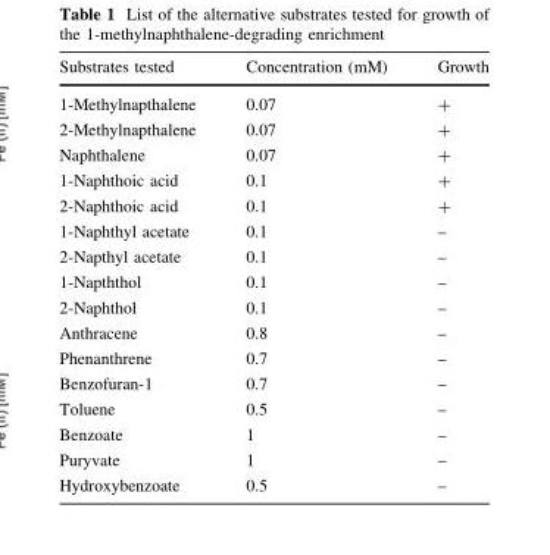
<table><thead><tr><td>Substrates tested</td><td>Concentration (mM)</td><td>Growth</td></tr></thead><tbody><tr><td>1-Methylnapthalene</td><td>0.07</td><td>+</td></tr><tr><td>2-Methylnapthalene</td><td>0.07</td><td>+</td></tr><tr><td>Naphthalene</td><td>0.07</td><td>+</td></tr><tr><td>1-Naphthoic acid</td><td>0.1</td><td>+</td></tr><tr><td>2-Naphthoic acid</td><td>0.1</td><td>+</td></tr><tr><td>1-Naphthyl acetate</td><td>0.1</td><td>–</td></tr><tr><td>2-Napthyl acetate</td><td>0.1</td><td>–</td></tr><tr><td>1-Napththol</td><td>0.1</td><td>–</td></tr><tr><td>2-Naphthol</td><td>0.1</td><td>–</td></tr><tr><td>Anthracene</td><td>0.8</td><td>–</td></tr><tr><td>Phenanthrene</td><td>0.7</td><td>–</td></tr><tr><td>Benzofuran-1</td><td>0.7</td><td>–</td></tr><tr><td>Toluene</td><td>0.5</td><td>–</td></tr><tr><td>Benzoate</td><td>1</td><td>–</td></tr><tr><td>Puryvate</td><td>1</td><td>–</td></tr><tr><td>Hydroxybenzoate</td><td>0.5</td><td>–</td></tr></tbody></table>